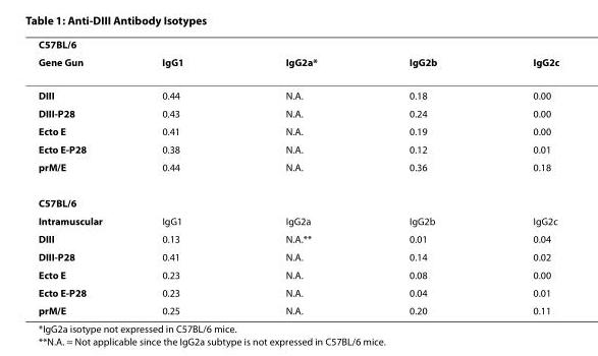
<table><thead><tr><td rowspan="2">C57BL/6 Gene Gun</td><td rowspan="2">IgG1</td><td rowspan="2">IgG2a*</td><td rowspan="2">IgG2b</td><td rowspan="2">IgG2c</td></tr><tr></tr></thead><tbody><tr><td>DIII</td><td>0.44</td><td>N.A.</td><td>0.18</td><td>0.00</td></tr><tr><td>DIII-P28</td><td>0.43</td><td>N.A.</td><td>0.24</td><td>0.00</td></tr><tr><td>Ecto E</td><td>0.41</td><td>N.A.</td><td>0.19</td><td>0.00</td></tr><tr><td>Ecto E-P28</td><td>0.38</td><td>N.A.</td><td>0.12</td><td>0.01</td></tr><tr><td>prM/E</td><td>0.44</td><td>N.A.</td><td>0.36</td><td>0.18</td></tr><tr><td colspan="5">C57BL/6</td></tr><tr><td>Intramuscular</td><td>IgG1</td><td>IgG2a</td><td>IgG2b</td><td>IgG2c</td></tr><tr><td>DIII</td><td>0.13</td><td>N.A.**</td><td>0.01</td><td>0.04</td></tr><tr><td>DIII-P28</td><td>0.41</td><td>N.A.</td><td>0.14</td><td>0.02</td></tr><tr><td>Ecto E</td><td>0.23</td><td>N.A.</td><td>0.08</td><td>0.00</td></tr><tr><td>Ecto E-P28</td><td>0.23</td><td>N.A.</td><td>0.04</td><td>0.01</td></tr><tr><td>prM/E</td><td>0.25</td><td>N.A.</td><td>0.20</td><td>0.11</td></tr></tbody></table>